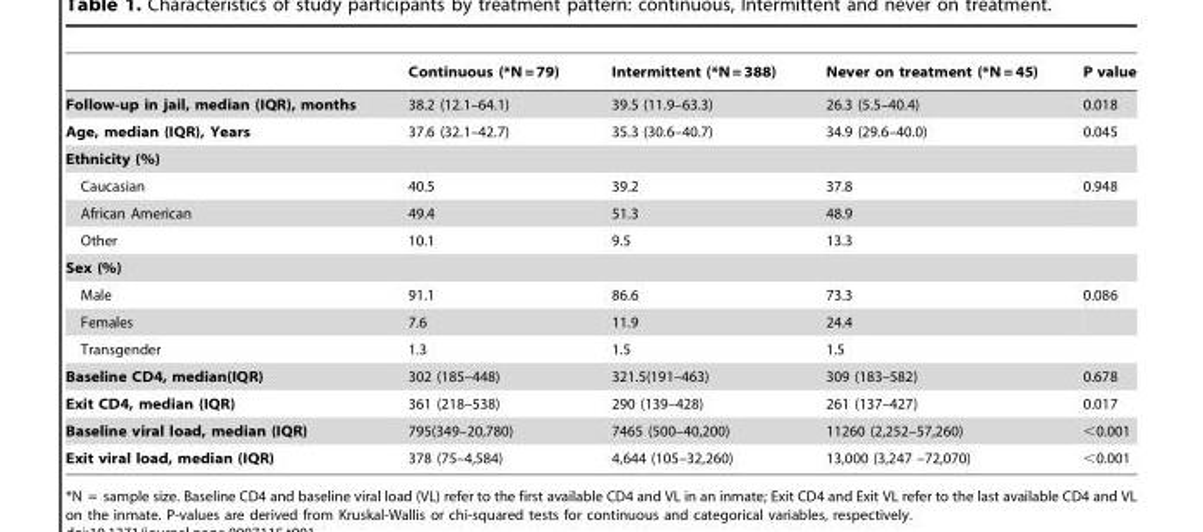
<table><thead><tr><td></td><td>Continuous (*N = 79)</td><td>Intermittent (*N = 388)</td><td>Never on treatment (*N = 45)</td><td>P value</td></tr></thead><tbody><tr><td>Follow-up in jail, median (IQR), months</td><td>38.2 (12.1–64.1)</td><td>39.5 (11.9–63.3)</td><td>26.3 (5.5–40.4)</td><td>0.018</td></tr><tr><td>Age, median (IQR), Years</td><td>37.6 (32.1–42.7)</td><td>35.3 (30.6–40.7)</td><td>34.9 (29.6–40.0)</td><td>0.045</td></tr><tr><td colspan="5">Ethnicity (%)</td></tr><tr><td>Caucasian</td><td>40.5</td><td>39.2</td><td>37.8</td><td>0.948</td></tr><tr><td>African American</td><td>49.4</td><td>51.3</td><td>48.9</td><td></td></tr><tr><td>Other</td><td>10.1</td><td>9.5</td><td>13.3</td><td></td></tr><tr><td colspan="5">Sex (%)</td></tr><tr><td>Male</td><td>91.1</td><td>86.6</td><td>73.3</td><td>0.086</td></tr><tr><td>Females</td><td>7.6</td><td>11.9</td><td>24.4</td><td></td></tr><tr><td>Transgender</td><td>1.3</td><td>1.5</td><td>1.5</td><td></td></tr><tr><td>Baseline CD4, median(IQR)</td><td>302 (185–448)</td><td>321.5(191–463)</td><td>309 (183–582)</td><td>0.678</td></tr><tr><td>Exit CD4, median (IQR)</td><td>361 (218–538)</td><td>290 (139–428)</td><td>261 (137–427)</td><td>0.017</td></tr><tr><td>Baseline viral load, median (IQR)</td><td>795(349–20,780)</td><td>7465 (500–40,200)</td><td>11260 (2,252–57,260)</td><td>&lt;0.001</td></tr><tr><td>Exit viral load, median (IQR)</td><td>378 (75–4,584)</td><td>4,644 (105–32,260)</td><td>13,000 (3,247 –72,070)</td><td>&lt;0.001</td></tr></tbody></table>